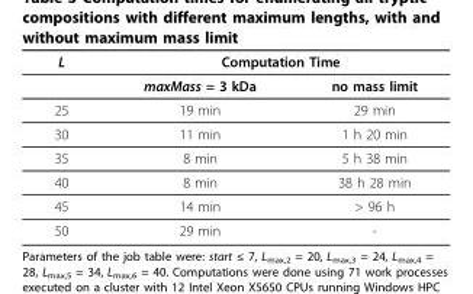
<table><thead><tr><td rowspan="2">L</td><td colspan="2">Computation Time</td></tr><tr><td>maxMass = 3 kDa</td><td>no mass limit</td></tr></thead><tbody><tr><td>25</td><td>19 min</td><td>29 min</td></tr><tr><td>30</td><td>11 min</td><td>1 h 20 min</td></tr><tr><td>35</td><td>8 min</td><td>5 h 38 min</td></tr><tr><td>40</td><td>8 min</td><td>38 h 28 min</td></tr><tr><td>45</td><td>14 min</td><td>&gt; 96 h</td></tr><tr><td>50</td><td>29 min</td><td>-</td></tr></tbody></table>